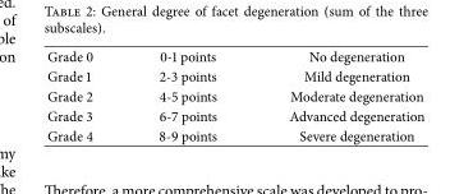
<table><tbody><tr><td>Grade 0</td><td>0-1 points</td><td>No degeneration</td></tr><tr><td>Grade 1</td><td>2-3 points</td><td>Mild degeneration</td></tr><tr><td>Grade 2</td><td>4-5 points</td><td>Moderate degeneration</td></tr><tr><td>Grade 3</td><td>6-7 points</td><td>Advanced degeneration</td></tr><tr><td>Grade 4</td><td>8-9 points</td><td>Severe degeneration</td></tr></tbody></table>